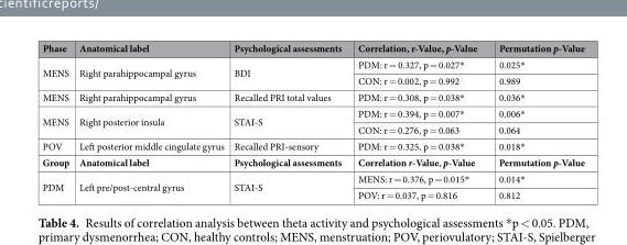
<table><thead><tr><td>Phase</td><td>Anatomical label</td><td>Psychological assessments</td><td>Correlation, r-Value, p-Value</td><td>Permutation p-Value</td></tr></thead><tbody><tr><td rowspan="2">MENS</td><td rowspan="2">Right parahippocampal gyrus</td><td rowspan="2">BDI</td><td>PDM: r = 0.327, p = 0.027*</td><td>0.025*</td></tr><tr><td>CON: r = 0.002, p = 0.992</td><td>0.989</td></tr><tr><td>MENS</td><td>Right parahippocampal gyrus</td><td>Recalled PRI total values</td><td>PDM: r = 0.308, p = 0.038*</td><td>0.036*</td></tr><tr><td rowspan="2">MENS</td><td rowspan="2">Right posterior insula</td><td rowspan="2">STAI-S</td><td>PDM: r = 0.394, p = 0.007*</td><td>0.006*</td></tr><tr><td>CON: r = 0.276, p = 0.063</td><td>0.064</td></tr><tr><td>POV</td><td>Left posterior middle cingulate gyrus</td><td>Recalled PRI-sensory</td><td>PDM: r = 0.325, p = 0.038*</td><td>0.018*</td></tr><tr><td>Group</td><td>Anatomical label</td><td>Psychological assessments</td><td>Correlation r-Value, p-Value</td><td>Permutation p-Value</td></tr><tr><td rowspan="2">PDM</td><td rowspan="2">Left pre/post-central gyrus</td><td rowspan="2">STAI-S</td><td>MENS: r = 0.376, p = 0.015*</td><td>0.014*</td></tr><tr><td>POV: r = 0.037, p = 0.816</td><td>0.812</td></tr></tbody></table>